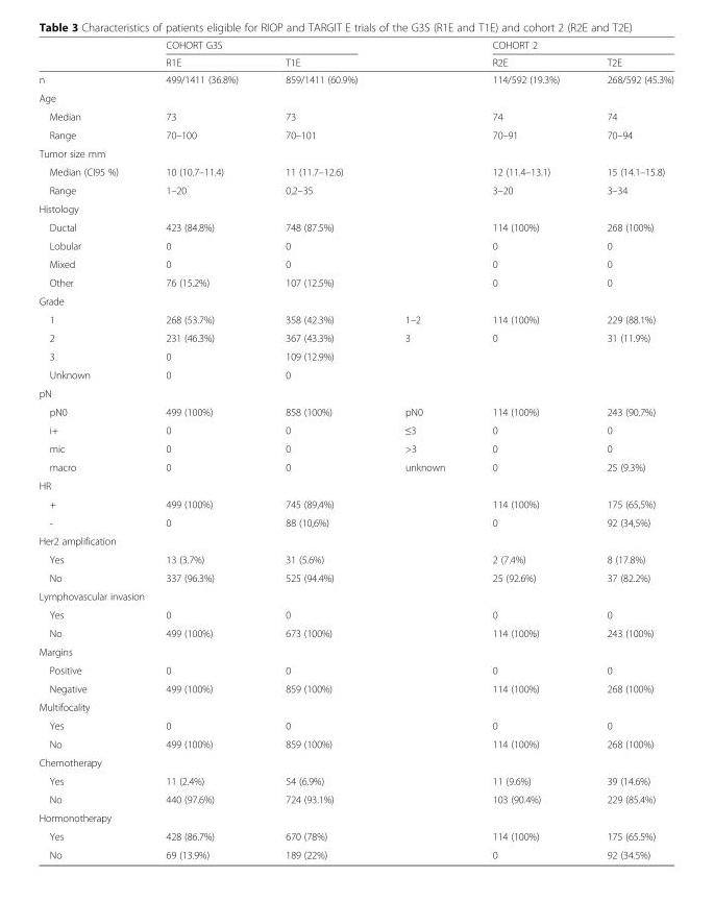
<table><thead><tr><td rowspan="2"></td><td colspan="2">COHORT G3S</td><td rowspan="2"></td><td colspan="2">COHORT 2</td></tr><tr><td>R1E</td><td>T1E</td><td>R2E</td><td>T2E</td></tr></thead><tbody><tr><td>n</td><td>499/1411 (36.8%)</td><td>859/1411 (60.9%)</td><td></td><td>114/592 (19.3%)</td><td>268/592 (45.3%)</td></tr><tr><td colspan="6">Age</td></tr><tr><td>Median</td><td>73</td><td>73</td><td></td><td>74</td><td>74</td></tr><tr><td>Range</td><td>70–100</td><td>70–101</td><td></td><td>70–91</td><td>70–94</td></tr><tr><td colspan="6">Tumor size mm</td></tr><tr><td>Median (CI95 %)</td><td>10 (10.7–11.4)</td><td>11 (11.7–12.6)</td><td></td><td>12 (11.4–13.1)</td><td>15 (14.1–15.8)</td></tr><tr><td>Range</td><td>1–20</td><td>0,2–35</td><td></td><td>3–20</td><td>3–34</td></tr><tr><td colspan="6">Histology</td></tr><tr><td>Ductal</td><td>423 (84.8%)</td><td>748 (87.5%)</td><td></td><td>114 (100%)</td><td>268 (100%)</td></tr><tr><td>Lobular</td><td>0</td><td>0</td><td></td><td>0</td><td>0</td></tr><tr><td>Mixed</td><td>0</td><td>0</td><td></td><td>0</td><td>0</td></tr><tr><td>Other</td><td>76 (15.2%)</td><td>107 (12.5%)</td><td></td><td>0</td><td>0</td></tr><tr><td colspan="6">Grade</td></tr><tr><td>1</td><td>268 (53.7%)</td><td>358 (42.3%)</td><td>1–2</td><td>114 (100%)</td><td>229 (88.1%)</td></tr><tr><td>2</td><td>231 (46.3%)</td><td>367 (43.3%)</td><td>3</td><td>0</td><td>31 (11.9%)</td></tr><tr><td>3</td><td>0</td><td>109 (12.9%)</td><td rowspan="2"></td><td rowspan="2"></td><td rowspan="2"></td></tr><tr><td>Unknown</td><td>0</td><td>0</td></tr><tr><td colspan="6">pN</td></tr><tr><td>pN0</td><td>499 (100%)</td><td>858 (100%)</td><td>pN0</td><td>114 (100%)</td><td>243 (90.7%)</td></tr><tr><td>i+</td><td>0</td><td>0</td><td>≤3</td><td>0</td><td>0</td></tr><tr><td>mic</td><td>0</td><td>0</td><td>&gt;3</td><td>0</td><td>0</td></tr><tr><td>macro</td><td>0</td><td>0</td><td>unknown</td><td>0</td><td>25 (9.3%)</td></tr><tr><td colspan="6">HR</td></tr><tr><td>+</td><td>499 (100%)</td><td>745 (89,4%)</td><td></td><td>114 (100%)</td><td>175 (65,5%)</td></tr><tr><td>-</td><td>0</td><td>88 (10,6%)</td><td></td><td>0</td><td>92 (34,5%)</td></tr><tr><td colspan="6">Her2 amplification</td></tr><tr><td>Yes</td><td>13 (3.7%)</td><td>31 (5.6%)</td><td></td><td>2 (7.4%)</td><td>8 (17.8%)</td></tr><tr><td>No</td><td>337 (96.3%)</td><td>525 (94.4%)</td><td></td><td>25 (92.6%)</td><td>37 (82.2%)</td></tr><tr><td colspan="6">Lymphovascular invasion</td></tr><tr><td>Yes</td><td>0</td><td>0</td><td></td><td>0</td><td>0</td></tr><tr><td>No</td><td>499 (100%)</td><td>673 (100%)</td><td></td><td>114 (100%)</td><td>243 (100%)</td></tr><tr><td colspan="6">Margins</td></tr><tr><td>Positive</td><td>0</td><td>0</td><td></td><td>0</td><td>0</td></tr><tr><td>Negative</td><td>499 (100%)</td><td>859 (100%)</td><td></td><td>114 (100%)</td><td>268 (100%)</td></tr><tr><td colspan="6">Multifocality</td></tr><tr><td>Yes</td><td>0</td><td>0</td><td></td><td>0</td><td>0</td></tr><tr><td>No</td><td>499 (100%)</td><td>859 (100%)</td><td></td><td>114 (100%)</td><td>268 (100%)</td></tr><tr><td colspan="6">Chemotherapy</td></tr><tr><td>Yes</td><td>11 (2.4%)</td><td>54 (6.9%)</td><td></td><td>11 (9.6%)</td><td>39 (14.6%)</td></tr><tr><td>No</td><td>440 (97.6%)</td><td>724 (93.1%)</td><td></td><td>103 (90.4%)</td><td>229 (85.4%)</td></tr><tr><td colspan="6">Hormonotherapy</td></tr><tr><td>Yes</td><td>428 (86.7%)</td><td>670 (78%)</td><td></td><td>114 (100%)</td><td>175 (65.5%)</td></tr><tr><td>No</td><td>69 (13.9%)</td><td>189 (22%)</td><td></td><td>0</td><td>92 (34.5%)</td></tr></tbody></table>